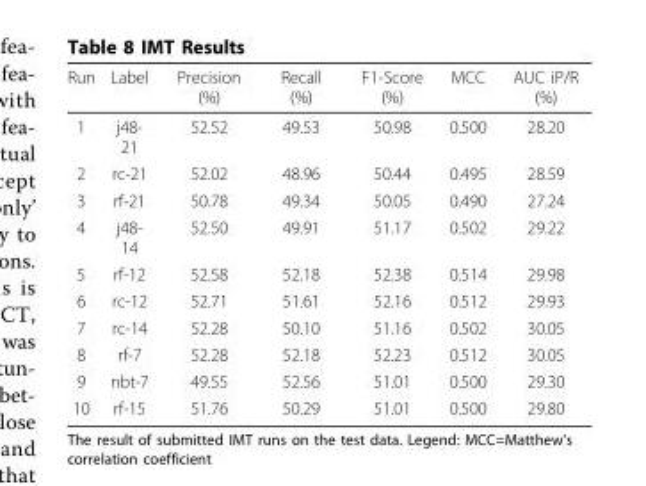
<table><thead><tr><td>Run</td><td>Label</td><td>Precision (%)</td><td>Recall (%)</td><td>F1-Score (%)</td><td>MCC</td><td>AUC iP/R (%)</td></tr></thead><tbody><tr><td>1</td><td>j48- 21</td><td>52.52</td><td>49.53</td><td>50.98</td><td>0.500</td><td>28.20</td></tr><tr><td>2</td><td>rc-21</td><td>52.02</td><td>48.96</td><td>50.44</td><td>0.495</td><td>28.59</td></tr><tr><td>3</td><td>rf-21</td><td>50.78</td><td>49.34</td><td>50.05</td><td>0.490</td><td>27.24</td></tr><tr><td>4</td><td>j48- 14</td><td>52.50</td><td>49.91</td><td>51.17</td><td>0.502</td><td>29.22</td></tr><tr><td>5</td><td>rf-12</td><td>52.58</td><td>52.18</td><td>52.38</td><td>0.514</td><td>29.98</td></tr><tr><td>6</td><td>rc-12</td><td>52.71</td><td>51.61</td><td>52.16</td><td>0.512</td><td>29.93</td></tr><tr><td>7</td><td>rc-14</td><td>52.28</td><td>50.10</td><td>51.16</td><td>0.502</td><td>30.05</td></tr><tr><td>8</td><td>rf-7</td><td>52.28</td><td>52.18</td><td>52.23</td><td>0.512</td><td>30.05</td></tr><tr><td>9</td><td>nbt-7</td><td>49.55</td><td>52.56</td><td>51.01</td><td>0.500</td><td>29.30</td></tr><tr><td>10</td><td>rf-15</td><td>51.76</td><td>50.29</td><td>51.01</td><td>0.500</td><td>29.80</td></tr></tbody></table>